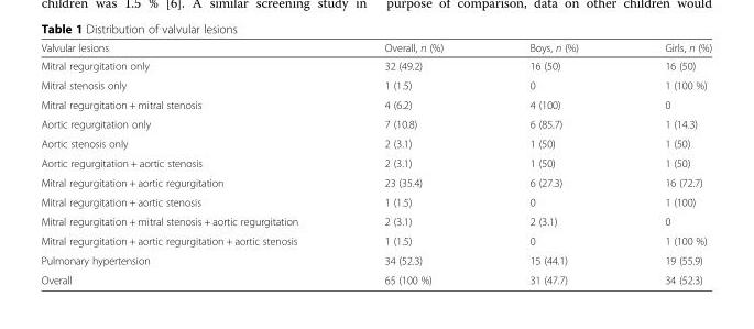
<table><thead><tr><td>Valvular lesions</td><td>Overall, n (%)</td><td>Boys, n (%)</td><td>Girls, n (%)</td></tr></thead><tbody><tr><td>Mitral regurgitation only</td><td>32 (49.2)</td><td>16 (50)</td><td>16 (50)</td></tr><tr><td>Mitral stenosis only</td><td>1 (1.5)</td><td>0</td><td>1 (100 %)</td></tr><tr><td>Mitral regurgitation + mitral stenosis</td><td>4 (6.2)</td><td>4 (100)</td><td>0</td></tr><tr><td>Aortic regurgitation only</td><td>7 (10.8)</td><td>6 (85.7)</td><td>1 (14.3)</td></tr><tr><td>Aortic stenosis only</td><td>2 (3.1)</td><td>1 (50)</td><td>1 (50)</td></tr><tr><td>Aortic regurgitation + aortic stenosis</td><td>2 (3.1)</td><td>1 (50)</td><td>1 (50)</td></tr><tr><td>Mitral regurgitation + aortic regurgitation</td><td>23 (35.4)</td><td>6 (27.3)</td><td>16 (72.7)</td></tr><tr><td>Mitral regurgitation + aortic stenosis</td><td>1 (1.5)</td><td>0</td><td>1 (100)</td></tr><tr><td>Mitral regurgitation + mitral stenosis + aortic regurgitation</td><td>2 (3.1)</td><td>2 (3.1)</td><td>0</td></tr><tr><td>Mitral regurgitation + aortic regurgitation + aortic stenosis</td><td>1 (1.5)</td><td>0</td><td>1 (100 %)</td></tr><tr><td>Pulmonary hypertension</td><td>34 (52.3)</td><td>15 (44.1)</td><td>19 (55.9)</td></tr><tr><td>Overall</td><td>65 (100 %)</td><td>31 (47.7)</td><td>34 (52.3)</td></tr></tbody></table>